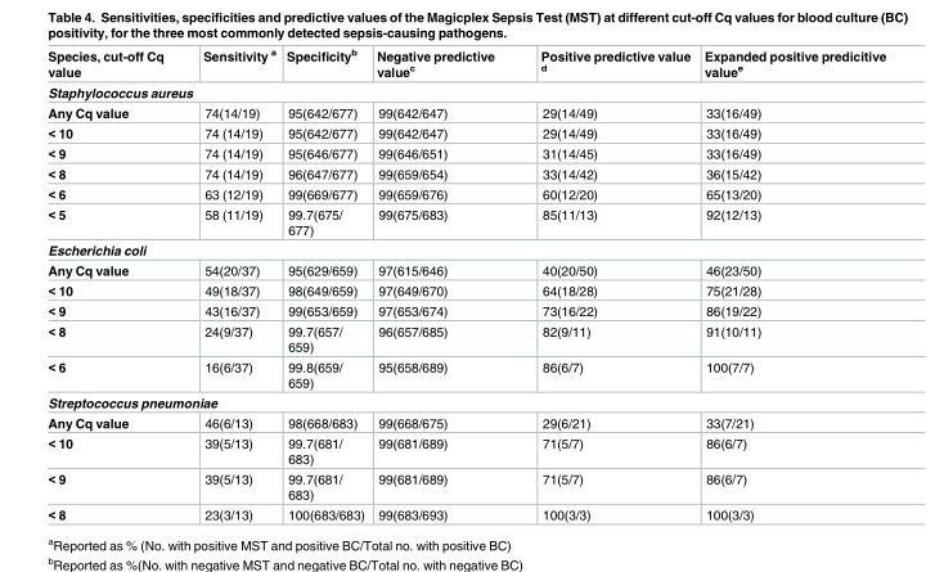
<table><thead><tr><td>Species, cut-off Cq value</td><td>Sensitivity <sup>a</sup></td><td>Specificity<sup>b</sup></td><td>Negative predictive value<sup>c</sup></td><td>Positive predictive value <sup>d</sup></td><td>Expanded positive predicitive value<sup>e</sup></td></tr></thead><tbody><tr><td colspan="6">Staphylococcus aureus</td></tr><tr><td>Any Cq value</td><td>74(14/19)</td><td>95(642/677)</td><td>99(642/647)</td><td>29(14/49)</td><td>33(16/49)</td></tr><tr><td>&lt; 10</td><td>74 (14/19)</td><td>95(642/677)</td><td>99(642/647)</td><td>29(14/49)</td><td>33(16/49)</td></tr><tr><td>&lt; 9</td><td>74 (14/19)</td><td>95(646/677)</td><td>99(646/651)</td><td>31(14/45)</td><td>33(16/49)</td></tr><tr><td>&lt; 8</td><td>74 (14/19)</td><td>96(647/677)</td><td>99(659/654)</td><td>33(14/42)</td><td>36(15/42)</td></tr><tr><td>&lt; 6</td><td>63 (12/19)</td><td>99(669/677)</td><td>99(659/676)</td><td>60(12/20)</td><td>65(13/20)</td></tr><tr><td>&lt; 5</td><td>58 (11/19)</td><td>99.7(675/ 677)</td><td>99(675/683)</td><td>85(11/13)</td><td>92(12/13)</td></tr><tr><td colspan="6">Escherichia coli</td></tr><tr><td>Any Cq value</td><td>54(20/37)</td><td>95(629/659)</td><td>97(615/646)</td><td>40(20/50)</td><td>46(23/50)</td></tr><tr><td>&lt; 10</td><td>49(18/37)</td><td>98(649/659)</td><td>97(649/670)</td><td>64(18/28)</td><td>75(21/28)</td></tr><tr><td>&lt; 9</td><td>43(16/37)</td><td>99(653/659)</td><td>97(653/674)</td><td>73(16/22)</td><td>86(19/22)</td></tr><tr><td>&lt; 8</td><td>24(9/37)</td><td>99.7(657/ 659)</td><td>96(657/685)</td><td>82(9/11)</td><td>91(10/11)</td></tr><tr><td>&lt; 6</td><td>16(6/37)</td><td>99.8(659/ 659)</td><td>95(658/689)</td><td>86(6/7)</td><td>100(7/7)</td></tr><tr><td colspan="6">Streptococcus pneumoniae</td></tr><tr><td>Any Cq value</td><td>46(6/13)</td><td>98(668/683)</td><td>99(668/675)</td><td>29(6/21)</td><td>33(7/21)</td></tr><tr><td>&lt; 10</td><td>39(5/13)</td><td>99.7(681/ 683)</td><td>99(681/689)</td><td>71(5/7)</td><td>86(6/7)</td></tr><tr><td>&lt; 9</td><td>39(5/13)</td><td>99.7(681/ 683)</td><td>99(681/689)</td><td>71(5/7)</td><td>86(6/7)</td></tr><tr><td>&lt; 8</td><td>23(3/13)</td><td>100(683/683)</td><td>99(683/693)</td><td>100(3/3)</td><td>100(3/3)</td></tr></tbody></table>